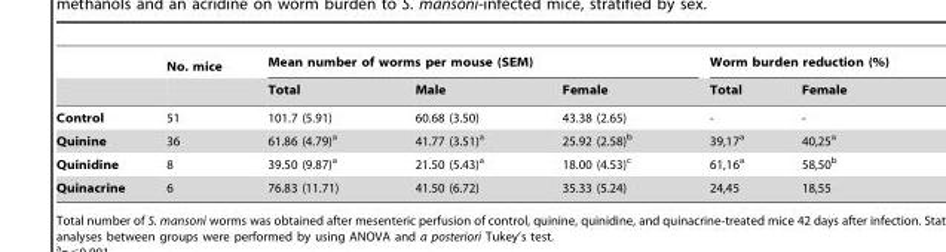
<table><thead><tr><td rowspan="2"></td><td rowspan="2">No. mice</td><td colspan="3">Mean number of worms per mouse (SEM)</td><td colspan="2">Worm burden reduction (%)</td></tr><tr><td>Total</td><td>Male</td><td>Female</td><td>Total</td><td>Female</td></tr></thead><tbody><tr><td>Control</td><td>51</td><td>101.7 (5.91)</td><td>60.68 (3.50)</td><td>43.38 (2.65)</td><td>-</td><td>-</td></tr><tr><td>Quinine</td><td>36</td><td>61.86 (4.79)<sup>a</sup></td><td>41.77 (3.51)<sup>a</sup></td><td>25.92 (2.58)<sup>b</sup></td><td>39,17<sup>a</sup></td><td>40,25<sup>a</sup></td></tr><tr><td>Quinidine</td><td>8</td><td>39.50 (9.87)<sup>a</sup></td><td>21.50 (5.43)<sup>a</sup></td><td>18.00 (4.53)<sup>c</sup></td><td>61,16<sup>a</sup></td><td>58,50<sup>b</sup></td></tr><tr><td>Quinacrine</td><td>6</td><td>76.83 (11.71)</td><td>41.50 (6.72)</td><td>35.33 (5.24)</td><td>24,45</td><td>18,55</td></tr></tbody></table>